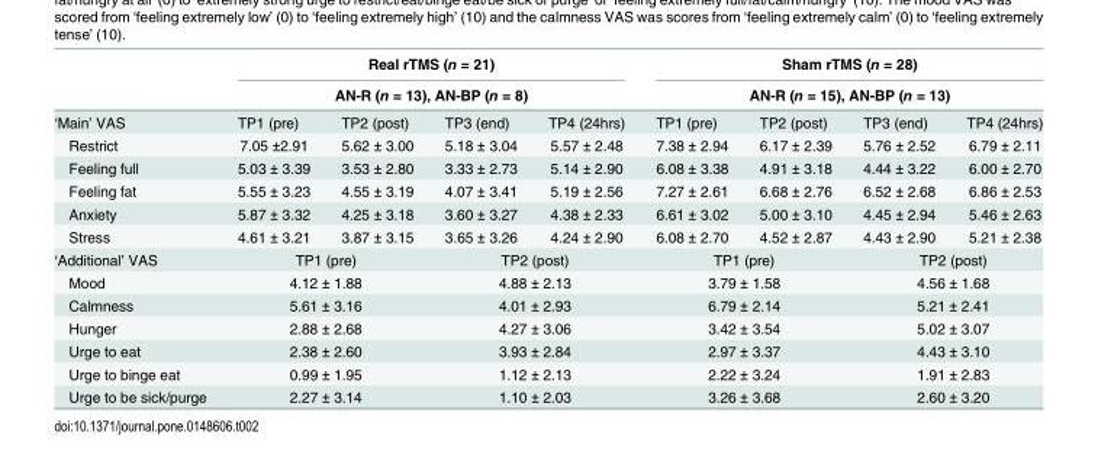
<table><thead><tr><td rowspan="3">‘Main’ VAS</td><td rowspan="2" colspan="4">Real rTMS (n = 21) AN-R (n = 13), AN-BP (n = 8)</td><td rowspan="2" colspan="4">Sham rTMS (n = 28) AN-R (n = 15), AN-BP (n = 13)</td></tr><tr></tr><tr><td>TP1 (pre)</td><td>TP2 (post)</td><td>TP3 (end)</td><td>TP4 (24hrs)</td><td>TP1 (pre)</td><td>TP2 (post)</td><td>TP3 (end)</td><td>TP4 (24hrs)</td></tr></thead><tbody><tr><td>Restrict</td><td>7.05 ±2.91</td><td>5.62 ± 3.00</td><td>5.18 ± 3.04</td><td>5.57 ± 2.48</td><td>7.38 ± 2.94</td><td>6.17 ± 2.39</td><td>5.76 ± 2.52</td><td>6.79 ± 2.11</td></tr><tr><td>Feeling full</td><td>5.03 ± 3.39</td><td>3.53 ± 2.80</td><td>3.33 ± 2.73</td><td>5.14 ± 2.90</td><td>6.08 ± 3.38</td><td>4.91 ± 3.18</td><td>4.44 ± 3.22</td><td>6.00 ± 2.70</td></tr><tr><td>Feeling fat</td><td>5.55 ± 3.23</td><td>4.55 ± 3.19</td><td>4.07 ± 3.41</td><td>5.19 ± 2.56</td><td>7.27 ± 2.61</td><td>6.68 ± 2.76</td><td>6.52 ± 2.68</td><td>6.86 ± 2.53</td></tr><tr><td>Anxiety</td><td>5.87 ± 3.32</td><td>4.25 ± 3.18</td><td>3.60 ± 3.27</td><td>4.38 ± 2.33</td><td>6.61 ± 3.02</td><td>5.00 ± 3.10</td><td>4.45 ± 2.94</td><td>5.46 ± 2.63</td></tr><tr><td>Stress</td><td>4.61 ± 3.21</td><td>3.87 ± 3.15</td><td>3.65 ± 3.26</td><td>4.24 ± 2.90</td><td>6.08 ± 2.70</td><td>4.52 ± 2.87</td><td>4.43 ± 2.90</td><td>5.21 ± 2.38</td></tr><tr><td>‘Additional’ VAS</td><td colspan="2">TP1 (pre)</td><td colspan="2">TP2 (post)</td><td colspan="2">TP1 (pre)</td><td colspan="2">TP2 (post)</td></tr><tr><td>Mood</td><td colspan="2">4.12 ± 1.88</td><td colspan="2">4.88 ± 2.13</td><td colspan="2">3.79 ± 1.58</td><td colspan="2">4.56 ± 1.68</td></tr><tr><td>Calmness</td><td colspan="2">5.61 ± 3.16</td><td colspan="2">4.01 ± 2.93</td><td colspan="2">6.79 ± 2.14</td><td colspan="2">5.21 ± 2.41</td></tr><tr><td>Hunger</td><td colspan="2">2.88 ± 2.68</td><td colspan="2">4.27 ± 3.06</td><td colspan="2">3.42 ± 3.54</td><td colspan="2">5.02 ± 3.07</td></tr><tr><td>Urge to eat</td><td colspan="2">2.38 ± 2.60</td><td colspan="2">3.93 ± 2.84</td><td colspan="2">2.97 ± 3.37</td><td colspan="2">4.43 ± 3.10</td></tr><tr><td>Urge to binge eat</td><td colspan="2">0.99 ± 1.95</td><td colspan="2">1.12 ± 2.13</td><td colspan="2">2.22 ± 3.24</td><td colspan="2">1.91 ± 2.83</td></tr><tr><td>Urge to be sick/purge</td><td colspan="2">2.27 ± 3.14</td><td colspan="2">1.10 ± 2.03</td><td colspan="2">3.26 ± 3.68</td><td colspan="2">2.60 ± 3.20</td></tr></tbody></table>